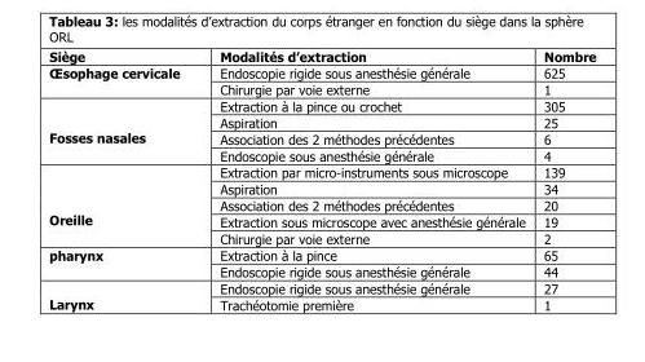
<table><thead><tr><td>Siège</td><td>Modalités d’extraction</td><td>Nombre</td></tr></thead><tbody><tr><td rowspan="2">Œsophage cervicale</td><td>Endoscopie rigide sous anesthésie générale</td><td>625</td></tr><tr><td>Chirurgie par voie externe</td><td>1</td></tr><tr><td rowspan="4">Fosses nasales</td><td>Extraction à la pince ou crochet</td><td>305</td></tr><tr><td>Aspiration</td><td>25</td></tr><tr><td>Association des 2 méthodes précédentes</td><td>6</td></tr><tr><td>Endoscopie sous anesthésie générale</td><td>4</td></tr><tr><td rowspan="5">Oreille</td><td>Extraction par micro-instruments sous microscope</td><td>139</td></tr><tr><td>Aspiration</td><td>34</td></tr><tr><td>Association des 2 méthodes précédentes</td><td>20</td></tr><tr><td>Extraction sous microscope avec anesthésie générale</td><td>19</td></tr><tr><td>Chirurgie par voie externe</td><td>2</td></tr><tr><td rowspan="2">pharynx</td><td>Extraction à la pince</td><td>65</td></tr><tr><td>Endoscopie rigide sous anesthésie générale</td><td>44</td></tr><tr><td rowspan="2">Larynx</td><td>Endoscopie rigide sous anesthésie générale</td><td>27</td></tr><tr><td>Trachéotomie première</td><td>1</td></tr></tbody></table>